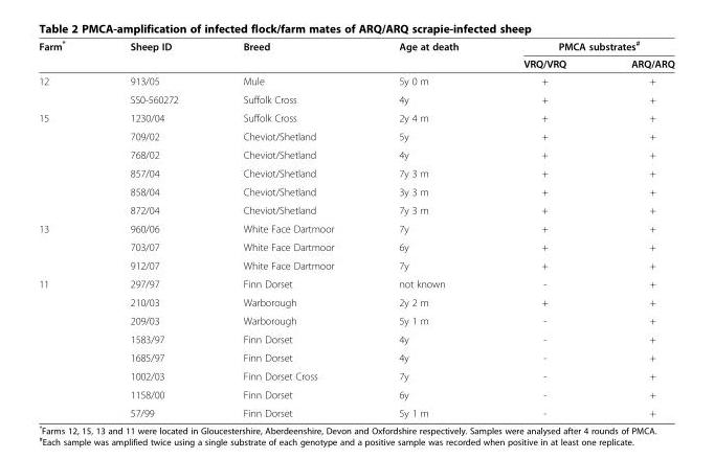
<table><thead><tr><td rowspan="2">Farm*</td><td rowspan="2">Sheep ID</td><td rowspan="2">Breed</td><td rowspan="2">Age at death</td><td colspan="2">PMCA substrates<sup>#</sup></td></tr><tr><td>VRQ/VRQ</td><td>ARQ/ARQ</td></tr></thead><tbody><tr><td rowspan="2">12</td><td>913/05</td><td>Mule</td><td>5y 0 m</td><td>+</td><td>+</td></tr><tr><td>SS0-560272</td><td>Suffolk Cross</td><td>4y</td><td>+</td><td>+</td></tr><tr><td rowspan="6">15</td><td>1230/04</td><td>Suffolk Cross</td><td>2y 4 m</td><td>+</td><td>+</td></tr><tr><td>709/02</td><td>Cheviot/Shetland</td><td>5y</td><td>+</td><td>+</td></tr><tr><td>768/02</td><td>Cheviot/Shetland</td><td>4y</td><td>+</td><td>+</td></tr><tr><td>857/04</td><td>Cheviot/Shetland</td><td>7y 3 m</td><td>+</td><td>+</td></tr><tr><td>858/04</td><td>Cheviot/Shetland</td><td>3y 3 m</td><td>+</td><td>+</td></tr><tr><td>872/04</td><td>Cheviot/Shetland</td><td>7y 3 m</td><td>+</td><td>+</td></tr><tr><td rowspan="3">13</td><td>960/06</td><td>White Face Dartmoor</td><td>7y</td><td>+</td><td>+</td></tr><tr><td>703/07</td><td>White Face Dartmoor</td><td>6y</td><td>+</td><td>+</td></tr><tr><td>912/07</td><td>White Face Dartmoor</td><td>7y</td><td>+</td><td>+</td></tr><tr><td rowspan="8">11</td><td>297/97</td><td>Finn Dorset</td><td>not known</td><td>-</td><td>+</td></tr><tr><td>210/03</td><td>Warborough</td><td>2y 2 m</td><td>+</td><td>+</td></tr><tr><td>209/03</td><td>Warborough</td><td>5y 1 m</td><td>-</td><td>+</td></tr><tr><td>1583/97</td><td>Finn Dorset</td><td>4y</td><td>-</td><td>+</td></tr><tr><td>1685/97</td><td>Finn Dorset</td><td>4y</td><td>-</td><td>+</td></tr><tr><td>1002/03</td><td>Finn Dorset Cross</td><td>7y</td><td>-</td><td>+</td></tr><tr><td>1158/00</td><td>Finn Dorset</td><td>6y</td><td>-</td><td>+</td></tr><tr><td>57/99</td><td>Finn Dorset</td><td>5y 1 m</td><td>-</td><td>+</td></tr></tbody></table>